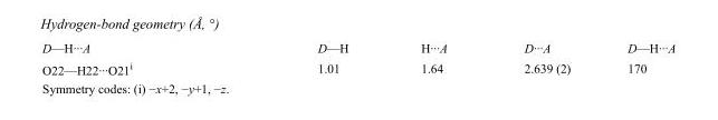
<table><tbody><tr><td>D—H···A</td><td>D—H</td><td>H···A</td><td>D···A</td><td>D—H···A</td></tr><tr><td>O22—H22···O21<sup>i</sup></td><td>1.01</td><td>1.64</td><td>2.639 (2)</td><td>170</td></tr></tbody></table>